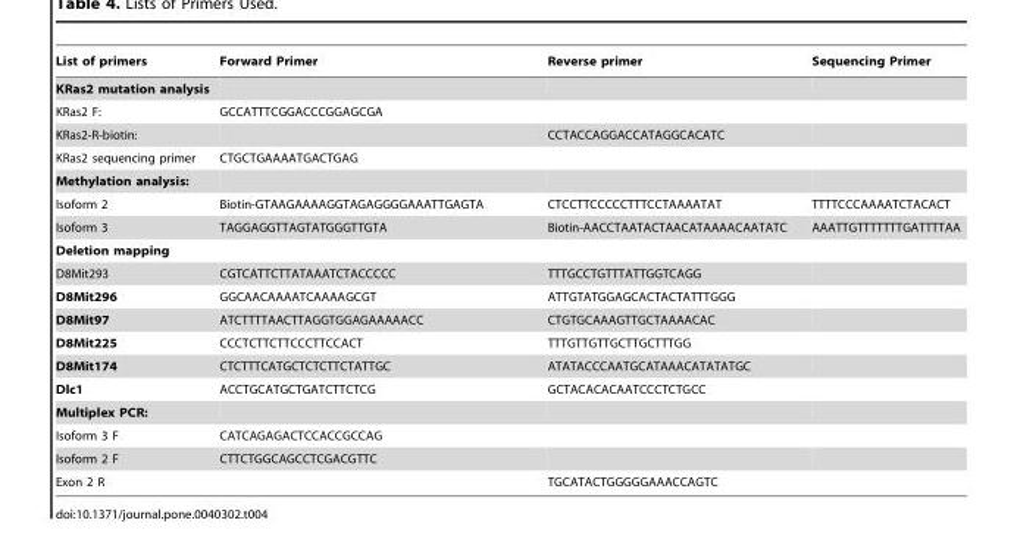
<table><thead><tr><td>List of primers</td><td>Forward Primer</td><td>Reverse primer</td><td>Sequencing Primer</td></tr></thead><tbody><tr><td colspan="4">KRas2 mutation analysis</td></tr><tr><td>KRas2 F:</td><td>GCCATTTCGGACCCGGAGCGA</td><td></td><td></td></tr><tr><td>KRas2-R-biotin:</td><td></td><td>CCTACCAGGACCATAGGCACATC</td><td></td></tr><tr><td>KRas2 sequencing primer</td><td>CTGCTGAAAATGACTGAG</td><td></td><td></td></tr><tr><td colspan="4">Methylation analysis:</td></tr><tr><td>Isoform 2</td><td>Biotin-GTAAGAAAAGGTAGAGGGGAAATTGAGTA</td><td>CTCCTTCCCCCTTTCCTAAAATAT</td><td>TTTTCCCAAAATCTACACT</td></tr><tr><td>Isoform 3</td><td>TAGGAGGTTAGTATGGGTTGTA</td><td>Biotin-AACCTAATACTAACATAAAACAATATC</td><td>AAATTGTTTTTTTGATTTTAA</td></tr><tr><td colspan="4">Deletion mapping</td></tr><tr><td>D8Mit293</td><td>CGTCATTCTTATAAATCTACCCCC</td><td>TTTGCCTGTTTATTGGTCAGG</td><td></td></tr><tr><td>D8Mit296</td><td>GGCAACAAAATCAAAAGCGT</td><td>ATTGTATGGAGCACTACTATTTGGG</td><td></td></tr><tr><td>D8Mit97</td><td>ATCTTTTAACTTAGGTGGAGAAAAACC</td><td>CTGTGCAAAGTTGCTAAAACAC</td><td></td></tr><tr><td>D8Mit225</td><td>CCCTCTTCTTCCCTTCCACT</td><td>TTTGTTGTTGCTTGCTTTGG</td><td></td></tr><tr><td>D8Mit174</td><td>CTCTTTCATGCTCTCTTCTATTGC</td><td>ATATACCCAATGCATAAACATATATGC</td><td></td></tr><tr><td>Dlc1</td><td>ACCTGCATGCTGATCTTCTCG</td><td>GCTACACACAATCCCTCTGCC</td><td></td></tr><tr><td colspan="4">Multiplex PCR:</td></tr><tr><td>Isoform 3 F</td><td>CATCAGAGACTCCACCGCCAG</td><td></td><td></td></tr><tr><td>Isoform 2 F</td><td>CTTCTGGCAGCCTCGACGTTC</td><td></td><td></td></tr><tr><td>Exon 2 R</td><td></td><td>TGCATACTGGGGGAAACCAGTC</td><td></td></tr></tbody></table>